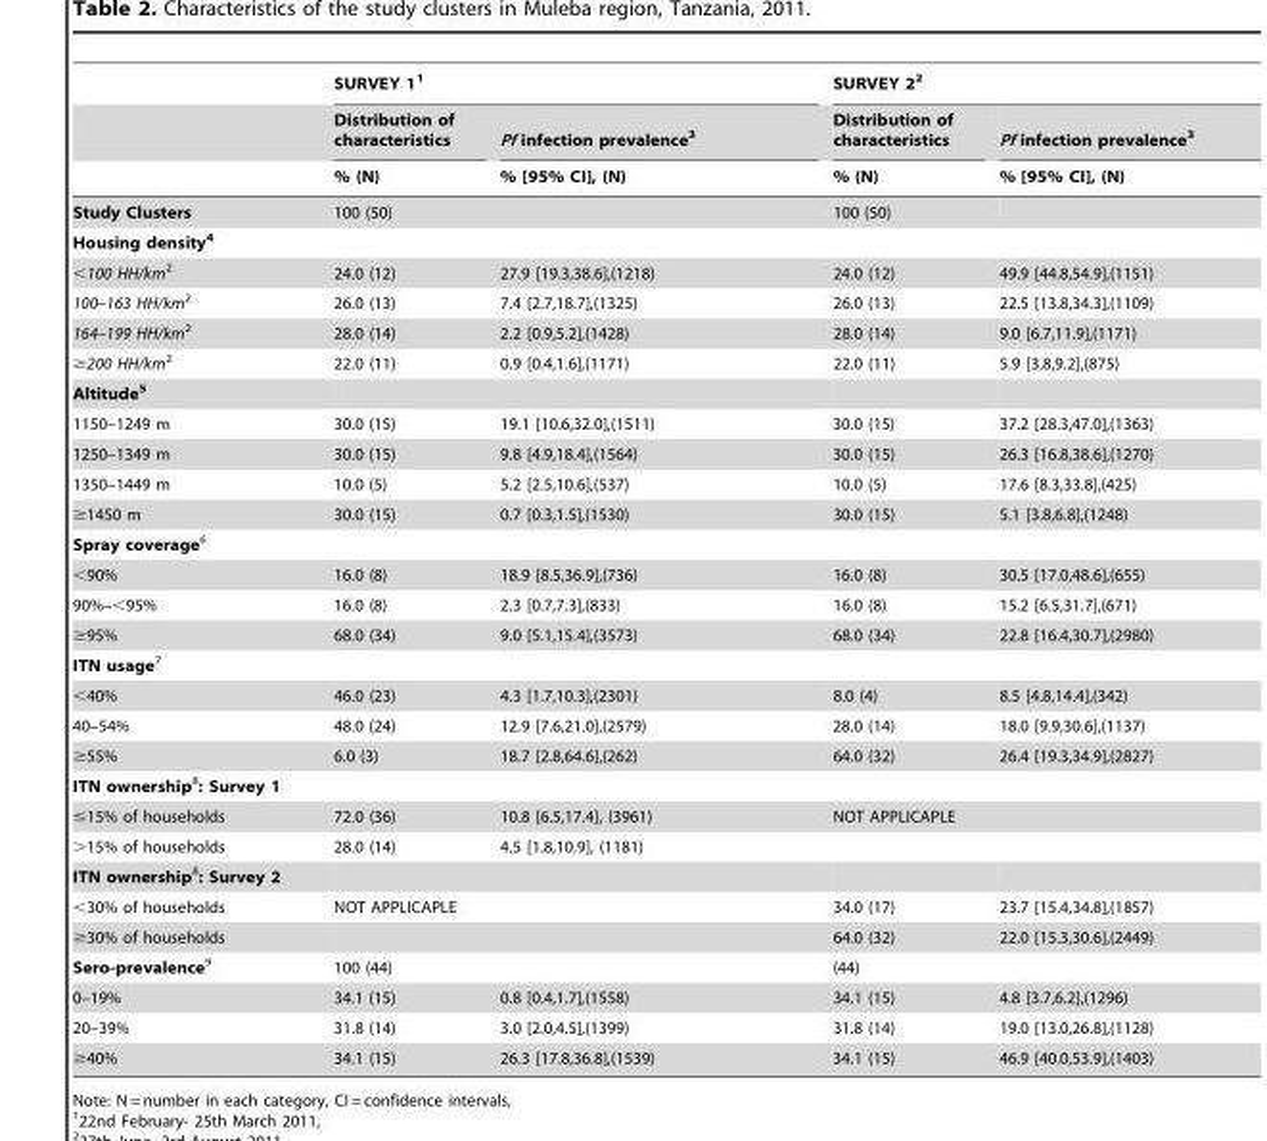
<table><thead><tr><td rowspan="3"></td><td colspan="2">SURVEY 1<sup>1</sup></td><td colspan="2">SURVEY 2<sup>2</sup></td></tr><tr><td rowspan="2">Distribution of characteristics % (N)</td><td rowspan="2">Pf infection prevalence<sup>3</sup> % [95% CI], (N)</td><td rowspan="2">Distribution of characteristics % (N)</td><td rowspan="2">Pf infection prevalence<sup>3</sup> % [95% CI], (N)</td></tr><tr></tr></thead><tbody><tr><td>Study Clusters</td><td>100 (50)</td><td></td><td>100 (50)</td><td></td></tr><tr><td colspan="5">Housing density4</td></tr><tr><td>&lt;100 HH/km2</td><td>24.0 (12)</td><td>27.9 [19.3,38.6],(1218)</td><td>24.0 (12)</td><td>49.9 [44.8,54.9],(1151)</td></tr><tr><td>100–163 HH/km2</td><td>26.0 (13)</td><td>7.4 [2.7,18.7],(1325)</td><td>26.0 (13)</td><td>22.5 [13.8,34.3],(1109)</td></tr><tr><td>164–199 HH/km2</td><td>28.0 (14)</td><td>2.2 [0.9,5.2],(1428)</td><td>28.0 (14)</td><td>9.0 [6.7,11.9],(1171)</td></tr><tr><td>≥200 HH/km2</td><td>22.0 (11)</td><td>0.9 [0.4,1.6],(1171)</td><td>22.0 (11)</td><td>5.9 [3.8,9.2],(875)</td></tr><tr><td colspan="5">Altitude5</td></tr><tr><td>1150–1249 m</td><td>30.0 (15)</td><td>19.1 [10.6,32.0],(1511)</td><td>30.0 (15)</td><td>37.2 [28.3,47.0],(1363)</td></tr><tr><td>1250–1349 m</td><td>30.0 (15)</td><td>9.8 [4.9,18.4],(1564)</td><td>30.0 (15)</td><td>26.3 [16.8,38.6],(1270)</td></tr><tr><td>1350–1449 m</td><td>10.0 (5)</td><td>5.2 [2.5,10.6],(537)</td><td>10.0 (5)</td><td>17.6 [8.3,33.8],(425)</td></tr><tr><td>≥1450 m</td><td>30.0 (15)</td><td>0.7 [0.3,1.5],(1530)</td><td>30.0 (15)</td><td>5.1 [3.8,6.8],(1248)</td></tr><tr><td colspan="5">Spray coverage6</td></tr><tr><td>&lt;90%</td><td>16.0 (8)</td><td>18.9 [8.5,36.9],(736)</td><td>16.0 (8)</td><td>30.5 [17.0,48.6],(655)</td></tr><tr><td>90%–&lt;95%</td><td>16.0 (8)</td><td>2.3 [0.7,7.3],(833)</td><td>16.0 (8)</td><td>15.2 [6.5,31.7],(671)</td></tr><tr><td>≥95%</td><td>68.0 (34)</td><td>9.0 [5.1,15.4],(3573)</td><td>68.0 (34)</td><td>22.8 [16.4,30.7],(2980)</td></tr><tr><td colspan="5">ITN usage7</td></tr><tr><td>&lt;40%</td><td>46.0 (23)</td><td>4.3 [1.7,10.3],(2301)</td><td>8.0 (4)</td><td>8.5 [4.8,14.4],(342)</td></tr><tr><td>40–54%</td><td>48.0 (24)</td><td>12.9 [7.6,21.0],(2579)</td><td>28.0 (14)</td><td>18.0 [9.9,30.6],(1137)</td></tr><tr><td>≥55%</td><td>6.0 (3)</td><td>18.7 [2.8,64.6],(262)</td><td>64.0 (32)</td><td>26.4 [19.3,34.9],(2827)</td></tr><tr><td colspan="5">ITN ownership8: Survey 1</td></tr><tr><td>≤15% of households</td><td>72.0 (36)</td><td>10.8 [6.5,17.4], (3961)</td><td colspan="2">NOT APPLICAPLE</td></tr><tr><td>&gt;15% of households</td><td>28.0 (14)</td><td>4.5 [1.8,10.9], (1181)</td><td></td><td></td></tr><tr><td colspan="5">ITN ownership8: Survey 2</td></tr><tr><td>&lt;30% of households</td><td colspan="2">NOT APPLICAPLE</td><td>34.0 (17)</td><td>23.7 [15.4,34.8],(1857)</td></tr><tr><td>≥30% of households</td><td></td><td></td><td>64.0 (32)</td><td>22.0 [15.3,30.6],(2449)</td></tr><tr><td>Sero-prevalence9</td><td>100 (44)</td><td></td><td>(44)</td><td></td></tr><tr><td>0–19%</td><td>34.1 (15)</td><td>0.8 [0.4,1.7],(1558)</td><td>34.1 (15)</td><td>4.8 [3.7,6.2],(1296)</td></tr><tr><td>20–39%</td><td>31.8 (14)</td><td>3.0 [2.0,4.5],(1399)</td><td>31.8 (14)</td><td>19.0 [13.0,26.8],(1128)</td></tr><tr><td>≥40%</td><td>34.1 (15)</td><td>26.3 [17.8,36.8],(1539)</td><td>34.1 (15)</td><td>46.9 [40.0,53.9],(1403)</td></tr></tbody></table>